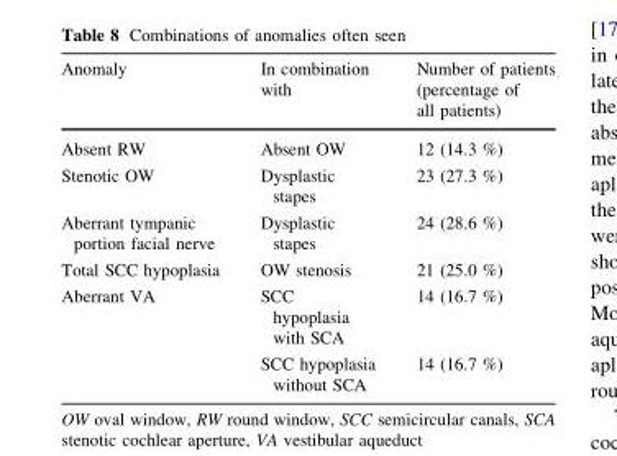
<table><thead><tr><td>Anomaly</td><td>In combination with</td><td>Number of patients (percentage of all patients)</td></tr></thead><tbody><tr><td>Absent RW</td><td>Absent OW</td><td>12 (14.3 %)</td></tr><tr><td>Stenotic OW</td><td>Dysplastic stapes</td><td>23 (27.3 %)</td></tr><tr><td>Aberrant tympanic portion facial nerve</td><td>Dysplastic stapes</td><td>24 (28.6 %)</td></tr><tr><td>Total SCC hypoplasia</td><td>OW stenosis</td><td>21 (25.0 %)</td></tr><tr><td rowspan="2">Aberrant VA</td><td>SCC hypoplasia with SCA</td><td>14 (16.7 %)</td></tr><tr><td>SCC hypoplasia without SCA</td><td>14 (16.7 %)</td></tr></tbody></table>